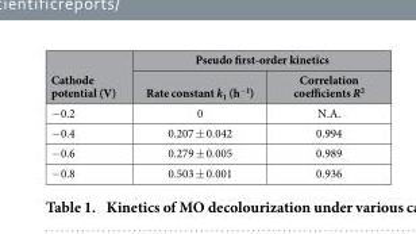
<table><thead><tr><td rowspan="2">Cathode potential (V)</td><td colspan="2">Pseudo first-order kinetics</td></tr><tr><td>Rate constant k<sub>1</sub> (h<sup>−1</sup>)</td><td>Correlation coefficients R<sup>2</sup></td></tr></thead><tbody><tr><td>− 0.2</td><td>0</td><td>N.A.</td></tr><tr><td>− 0.4</td><td>0.207 ± 0.042</td><td>0.994</td></tr><tr><td>− 0.6</td><td>0.279 ± 0.005</td><td>0.989</td></tr><tr><td>− 0.8</td><td>0.503 ± 0.001</td><td>0.936</td></tr></tbody></table>